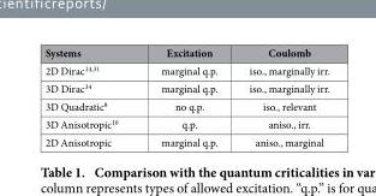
<table><thead><tr><td>Systems</td><td>Excitation</td><td>Coulomb</td></tr></thead><tbody><tr><td>2D Dirac<sup>14</sup>,<sup>31</sup></td><td>marginal q.p.</td><td>iso., marginally irr.</td></tr><tr><td>3D Dirac<sup>34</sup></td><td>marginal q.p.</td><td>iso., marginally irr.</td></tr><tr><td>3D Quadratic<sup>8</sup></td><td>no q.p.</td><td>iso., relevant</td></tr><tr><td>3D Anisotropic<sup>10</sup></td><td>q.p.</td><td>aniso., irr.</td></tr><tr><td>2D Anisotropic</td><td>marginal q.p.</td><td>aniso., marginal</td></tr></tbody></table>